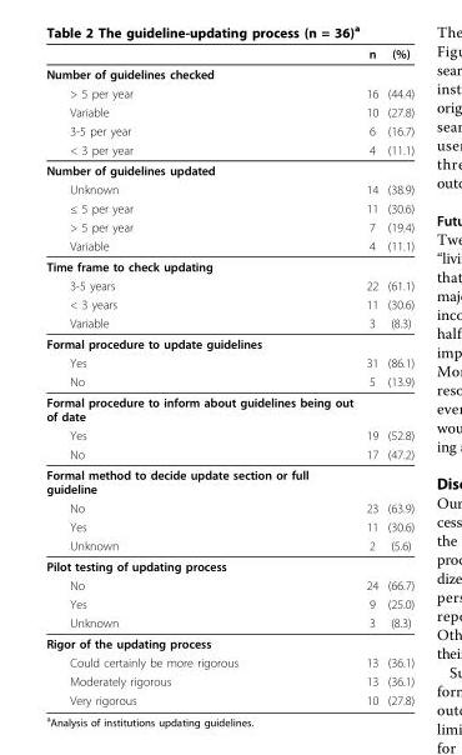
<table><thead><tr><td></td><td>n</td><td>(%)</td></tr></thead><tbody><tr><td colspan="3">Number of guidelines checked</td></tr><tr><td>&gt; 5 per year</td><td>16</td><td>(44.4)</td></tr><tr><td>Variable</td><td>10</td><td>(27.8)</td></tr><tr><td>3-5 per year</td><td>6</td><td>(16.7)</td></tr><tr><td>&lt; 3 per year</td><td>4</td><td>(11.1)</td></tr><tr><td colspan="3">Number of guidelines updated</td></tr><tr><td>Unknown</td><td>14</td><td>(38.9)</td></tr><tr><td>≤ 5 per year</td><td>11</td><td>(30.6)</td></tr><tr><td>&gt; 5 per year</td><td>7</td><td>(19.4)</td></tr><tr><td>Variable</td><td>4</td><td>(11.1)</td></tr><tr><td colspan="3">Time frame to check updating</td></tr><tr><td>3-5 years</td><td>22</td><td>(61.1)</td></tr><tr><td>&lt; 3 years</td><td>11</td><td>(30.6)</td></tr><tr><td>Variable</td><td>3</td><td>(8.3)</td></tr><tr><td colspan="3">Formal procedure to update guidelines</td></tr><tr><td>Yes</td><td>31</td><td>(86.1)</td></tr><tr><td>No</td><td>5</td><td>(13.9)</td></tr><tr><td colspan="3">Formal procedure to inform about guidelines being out of date</td></tr><tr><td>Yes</td><td>19</td><td>(52.8)</td></tr><tr><td>No</td><td>17</td><td>(47.2)</td></tr><tr><td colspan="3">Formal method to decide update section or full guideline</td></tr><tr><td>No</td><td>23</td><td>(63.9)</td></tr><tr><td>Yes</td><td>11</td><td>(30.6)</td></tr><tr><td>Unknown</td><td>2</td><td>(5.6)</td></tr><tr><td colspan="3">Pilot testing of updating process</td></tr><tr><td>No</td><td>24</td><td>(66.7)</td></tr><tr><td>Yes</td><td>9</td><td>(25.0)</td></tr><tr><td>Unknown</td><td>3</td><td>(8.3)</td></tr><tr><td colspan="3">Rigor of the updating process</td></tr><tr><td>Could certainly be more rigorous</td><td>13</td><td>(36.1)</td></tr><tr><td>Moderately rigorous</td><td>13</td><td>(36.1)</td></tr><tr><td>Very rigorous</td><td>10</td><td>(27.8)</td></tr></tbody></table>